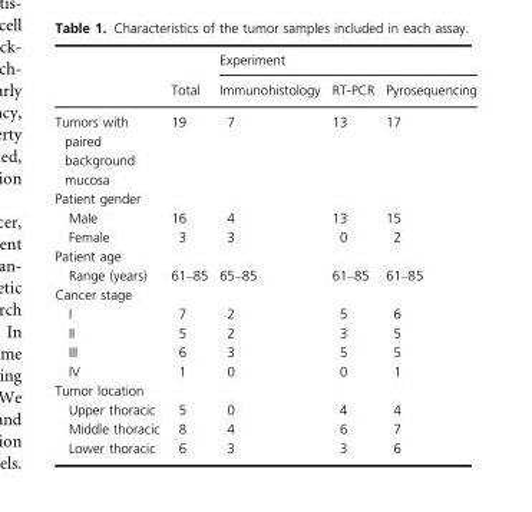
<table><thead><tr><td rowspan="2"></td><td rowspan="2">Total</td><td colspan="3">Experiment</td></tr><tr><td>Immunohistology</td><td>RT-PCR</td><td>Pyrosequencing</td></tr></thead><tbody><tr><td>Tumors with paired background mucosa</td><td>19</td><td>7</td><td>13</td><td>17</td></tr><tr><td colspan="5">Patient gender</td></tr><tr><td>Male</td><td>16</td><td>4</td><td>13</td><td>15</td></tr><tr><td>Female</td><td>3</td><td>3</td><td>0</td><td>2</td></tr><tr><td colspan="5">Patient age</td></tr><tr><td>Range (years)</td><td>61–85</td><td>65–85</td><td>61–85</td><td>61–85</td></tr><tr><td colspan="5">Cancer stage</td></tr><tr><td>I</td><td>7</td><td>2</td><td>5</td><td>6</td></tr><tr><td>II</td><td>5</td><td>2</td><td>3</td><td>5</td></tr><tr><td>III</td><td>6</td><td>3</td><td>5</td><td>5</td></tr><tr><td>IV</td><td>1</td><td>0</td><td>0</td><td>1</td></tr><tr><td colspan="5">Tumor location</td></tr><tr><td>Upper thoracic</td><td>5</td><td>0</td><td>4</td><td>4</td></tr><tr><td>Middle thoracic</td><td>8</td><td>4</td><td>6</td><td>7</td></tr><tr><td>Lower thoracic</td><td>6</td><td>3</td><td>3</td><td>6</td></tr></tbody></table>